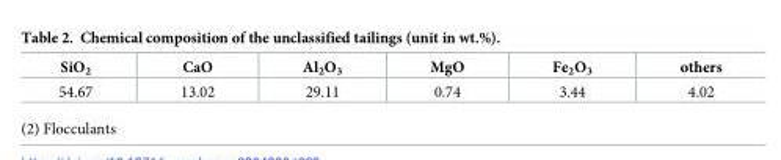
<table><thead><tr><td>SiO<sub>2</sub></td><td>CaO</td><td>Al<sub>2</sub>O<sub>3</sub></td><td>MgO</td><td>Fe<sub>2</sub>O<sub>3</sub></td><td>others</td></tr></thead><tbody><tr><td>54.67</td><td>13.02</td><td>29.11</td><td>0.74</td><td>3.44</td><td>4.02</td></tr></tbody></table>